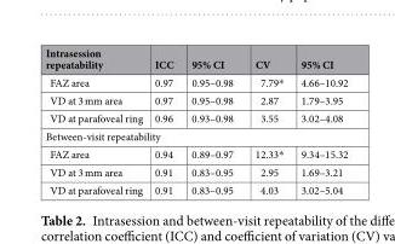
<table><thead><tr><td>Intrasession repeatability</td><td>ICC</td><td>95% CI</td><td>CV</td><td>95% CI</td></tr></thead><tbody><tr><td>FAZ area</td><td>0.97</td><td>0.95–0.98</td><td>7.79*</td><td>4.66–10.92</td></tr><tr><td>VD at 3 mm area</td><td>0.97</td><td>0.95–0.98</td><td>2.87</td><td>1.79–3.95</td></tr><tr><td>VD at parafoveal ring</td><td>0.96</td><td>0.93–0.98</td><td>3.55</td><td>3.02–4.08</td></tr><tr><td colspan="5">Between-visit repeatability</td></tr><tr><td>FAZ area</td><td>0.94</td><td>0.89–0.97</td><td>12.33*</td><td>9.34–15.32</td></tr><tr><td>VD at 3 mm area</td><td>0.91</td><td>0.83–0.95</td><td>2.95</td><td>1.69–3.21</td></tr><tr><td>VD at parafoveal ring</td><td>0.91</td><td>0.83–0.95</td><td>4.03</td><td>3.02–5.04</td></tr></tbody></table>